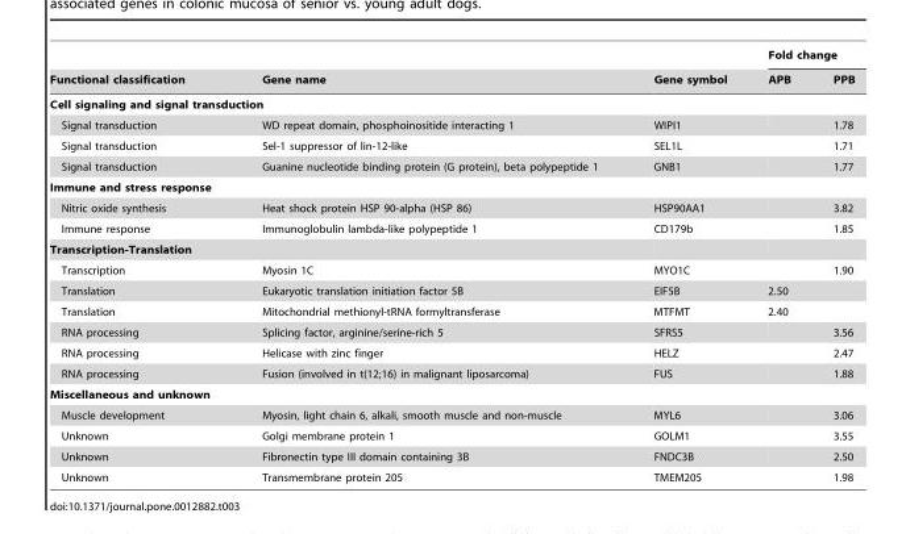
<table><thead><tr><td rowspan="2">Functional classification</td><td rowspan="2">Gene name</td><td rowspan="2">Gene symbol</td><td colspan="2">Fold change</td></tr><tr><td>APB</td><td>PPB</td></tr></thead><tbody><tr><td colspan="5">Cell signaling and signal transduction</td></tr><tr><td>Signal transduction</td><td>WD repeat domain, phosphoinositide interacting 1</td><td>WIPI1</td><td></td><td>1.78</td></tr><tr><td>Signal transduction</td><td>Sel-1 suppressor of lin-12-like</td><td>SEL1L</td><td></td><td>1.71</td></tr><tr><td>Signal transduction</td><td>Guanine nucleotide binding protein (G protein), beta polypeptide 1</td><td>GNB1</td><td></td><td>1.77</td></tr><tr><td colspan="5">Immune and stress response</td></tr><tr><td>Nitric oxide synthesis</td><td>Heat shock protein HSP 90-alpha (HSP 86)</td><td>HSP90AA1</td><td></td><td>3.82</td></tr><tr><td>Immune response</td><td>Immunoglobulin lambda-like polypeptide 1</td><td>CD179b</td><td></td><td>1.85</td></tr><tr><td colspan="5">Transcription-Translation</td></tr><tr><td>Transcription</td><td>Myosin 1C</td><td>MYO1C</td><td></td><td>1.90</td></tr><tr><td>Translation</td><td>Eukaryotic translation initiation factor 5B</td><td>EIF5B</td><td>2.50</td><td></td></tr><tr><td>Translation</td><td>Mitochondrial methionyl-tRNA formyltransferase</td><td>MTFMT</td><td>2.40</td><td></td></tr><tr><td>RNA processing</td><td>Splicing factor, arginine/serine-rich 5</td><td>SFRS5</td><td></td><td>3.56</td></tr><tr><td>RNA processing</td><td>Helicase with zinc finger</td><td>HELZ</td><td></td><td>2.47</td></tr><tr><td>RNA processing</td><td>Fusion (involved in t(12;16) in malignant liposarcoma)</td><td>FUS</td><td></td><td>1.88</td></tr><tr><td colspan="5">Miscellaneous and unknown</td></tr><tr><td>Muscle development</td><td>Myosin, light chain 6, alkali, smooth muscle and non-muscle</td><td>MYL6</td><td></td><td>3.06</td></tr><tr><td>Unknown</td><td>Golgi membrane protein 1</td><td>GOLM1</td><td></td><td>3.55</td></tr><tr><td>Unknown</td><td>Fibronectin type III domain containing 3B</td><td>FNDC3B</td><td></td><td>2.50</td></tr><tr><td>Unknown</td><td>Transmembrane protein 205</td><td>TMEM205</td><td></td><td>1.98</td></tr></tbody></table>